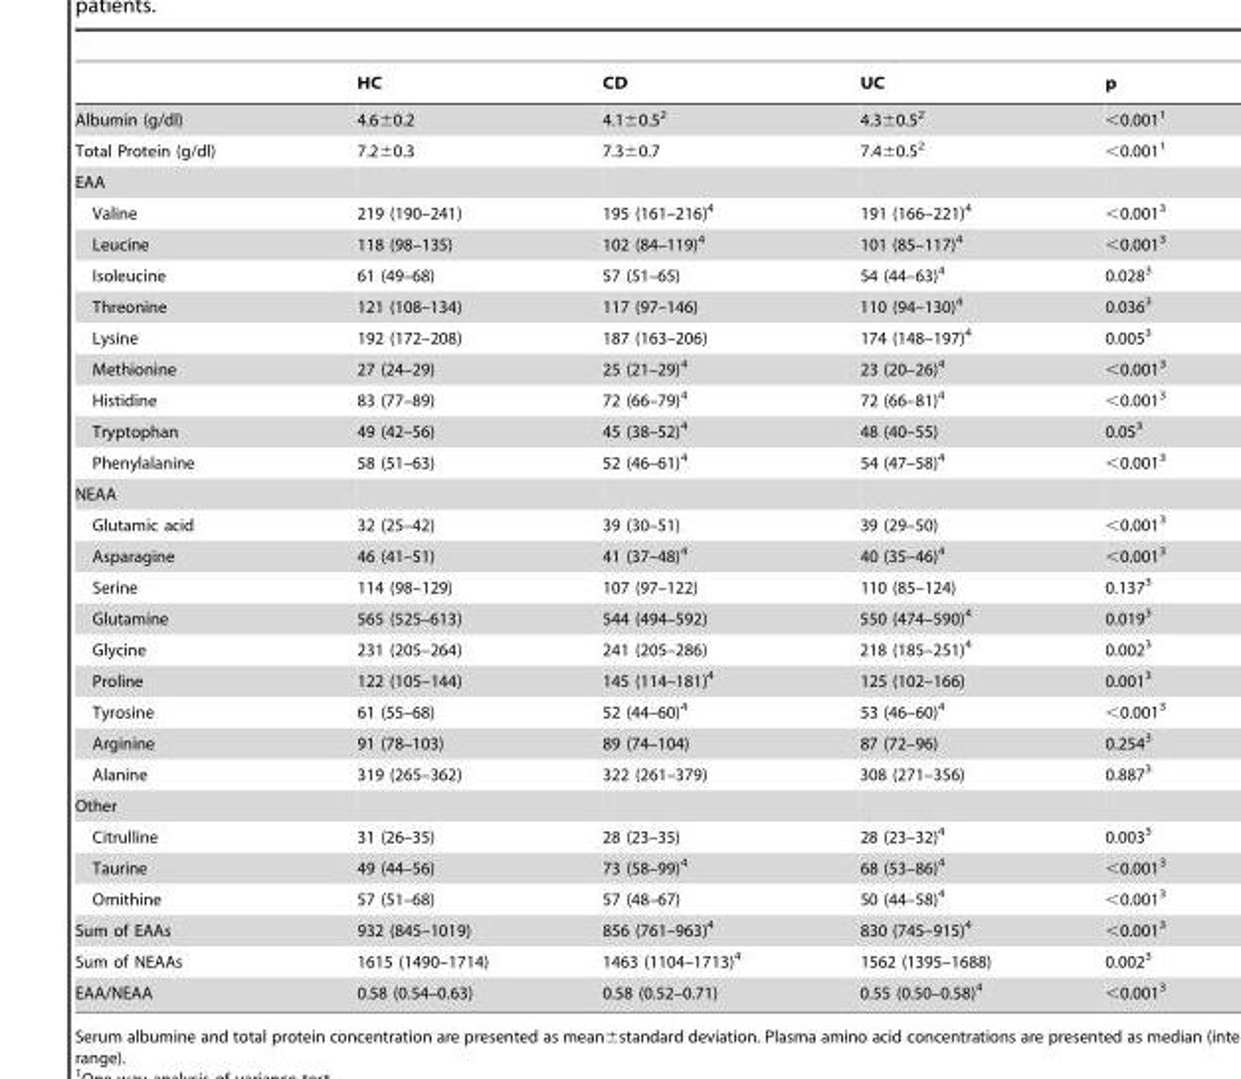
<table><thead><tr><td></td><td>HC</td><td>CD</td><td>UC</td><td>p</td></tr></thead><tbody><tr><td>Albumin (g/dl)</td><td>4.6±0.2</td><td>4.1±0.5<sup>2</sup></td><td>4.3±0.5<sup>2</sup></td><td>&lt;0.001<sup>1</sup></td></tr><tr><td>Total Protein (g/dl)</td><td>7.2±0.3</td><td>7.3±0.7</td><td>7.4±0.5<sup>2</sup></td><td>&lt;0.001<sup>1</sup></td></tr><tr><td colspan="5">EAA</td></tr><tr><td>Valine</td><td>219 (190–241)</td><td>195 (161–216)<sup>4</sup></td><td>191 (166–221)<sup>4</sup></td><td>&lt;0.001<sup>3</sup></td></tr><tr><td>Leucine</td><td>118 (98–135)</td><td>102 (84–119)<sup>4</sup></td><td>101 (85–117)<sup>4</sup></td><td>&lt;0.001<sup>3</sup></td></tr><tr><td>Isoleucine</td><td>61 (49–68)</td><td>57 (51–65)</td><td>54 (44–63)<sup>4</sup></td><td>0.028<sup>3</sup></td></tr><tr><td>Threonine</td><td>121 (108–134)</td><td>117 (97–146)</td><td>110 (94–130)<sup>4</sup></td><td>0.036<sup>3</sup></td></tr><tr><td>Lysine</td><td>192 (172–208)</td><td>187 (163–206)</td><td>174 (148–197)<sup>4</sup></td><td>0.005<sup>3</sup></td></tr><tr><td>Methionine</td><td>27 (24–29)</td><td>25 (21–29)<sup>4</sup></td><td>23 (20–26)<sup>4</sup></td><td>&lt;0.001<sup>3</sup></td></tr><tr><td>Histidine</td><td>83 (77–89)</td><td>72 (66–79)<sup>4</sup></td><td>72 (66–81)<sup>4</sup></td><td>&lt;0.001<sup>3</sup></td></tr><tr><td>Tryptophan</td><td>49 (42–56)</td><td>45 (38–52)<sup>4</sup></td><td>48 (40–55)</td><td>0.05<sup>3</sup></td></tr><tr><td>Phenylalanine</td><td>58 (51–63)</td><td>52 (46–61)<sup>4</sup></td><td>54 (47–58)<sup>4</sup></td><td>&lt;0.001<sup>3</sup></td></tr><tr><td colspan="5">NEAA</td></tr><tr><td>Glutamic acid</td><td>32 (25–42)</td><td>39 (30–51)</td><td>39 (29–50)</td><td>&lt;0.001<sup>3</sup></td></tr><tr><td>Asparagine</td><td>46 (41–51)</td><td>41 (37–48)<sup>4</sup></td><td>40 (35–46)<sup>4</sup></td><td>&lt;0.001<sup>3</sup></td></tr><tr><td>Serine</td><td>114 (98–129)</td><td>107 (97–122)</td><td>110 (85–124)</td><td>0.137<sup>3</sup></td></tr><tr><td>Glutamine</td><td>565 (525–613)</td><td>544 (494–592)</td><td>550 (474–590)<sup>4</sup></td><td>0.019<sup>3</sup></td></tr><tr><td>Glycine</td><td>231 (205–264)</td><td>241 (205–286)</td><td>218 (185–251)<sup>4</sup></td><td>0.002<sup>3</sup></td></tr><tr><td>Proline</td><td>122 (105–144)</td><td>145 (114–181)<sup>4</sup></td><td>125 (102–166)</td><td>0.001<sup>3</sup></td></tr><tr><td>Tyrosine</td><td>61 (55–68)</td><td>52 (44–60)<sup>4</sup></td><td>53 (46–60)<sup>4</sup></td><td>&lt;0.001<sup>3</sup></td></tr><tr><td>Arginine</td><td>91 (78–103)</td><td>89 (74–104)</td><td>87 (72–96)</td><td>0.254<sup>3</sup></td></tr><tr><td>Alanine</td><td>319 (265–362)</td><td>322 (261–379)</td><td>308 (271–356)</td><td>0.887<sup>3</sup></td></tr><tr><td colspan="5">Other</td></tr><tr><td>Citrulline</td><td>31 (26–35)</td><td>28 (23–35)</td><td>28 (23–32)<sup>4</sup></td><td>0.003<sup>3</sup></td></tr><tr><td>Taurine</td><td>49 (44–56)</td><td>73 (58–99)<sup>4</sup></td><td>68 (53–86)<sup>4</sup></td><td>&lt;0.001<sup>3</sup></td></tr><tr><td>Ornithine</td><td>57 (51–68)</td><td>57 (48–67)</td><td>50 (44–58)<sup>4</sup></td><td>&lt;0.001<sup>3</sup></td></tr><tr><td>Sum of EAAs</td><td>932 (845–1019)</td><td>856 (761–963)<sup>4</sup></td><td>830 (745–915)<sup>4</sup></td><td>&lt;0.001<sup>3</sup></td></tr><tr><td>Sum of NEAAs</td><td>1615 (1490–1714)</td><td>1463 (1104–1713)<sup>4</sup></td><td>1562 (1395–1688)</td><td>0.002<sup>3</sup></td></tr><tr><td>EAA/NEAA</td><td>0.58 (0.54–0.63)</td><td>0.58 (0.52–0.71)</td><td>0.55 (0.50–0.58)<sup>4</sup></td><td>&lt;0.001<sup>3</sup></td></tr></tbody></table>